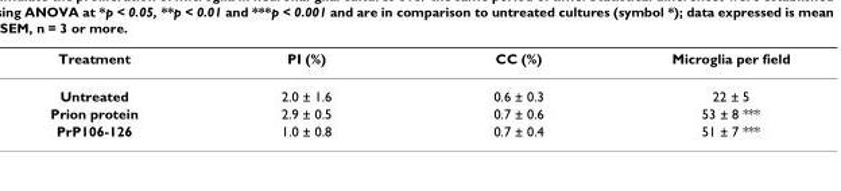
<table><thead><tr><td>Treatment</td><td>PI (%)</td><td>CC (%)</td><td>Microglia per field</td></tr></thead><tbody><tr><td>Untreated</td><td>2.0 ± 1.6</td><td>0.6 ± 0.3</td><td>22 ± 5</td></tr><tr><td>Prion protein</td><td>2.9 ± 0.5</td><td>0.7 ± 0.6</td><td>53 ± 8 ***</td></tr><tr><td>PrP106-126</td><td>1.0 ± 0.8</td><td>0.7 ± 0.4</td><td>51 ± 7 ***</td></tr></tbody></table>